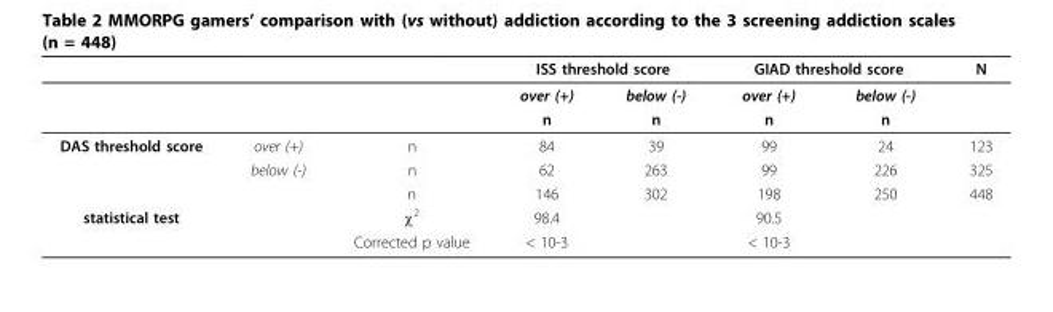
<table><thead><tr><td rowspan="2"></td><td rowspan="2"></td><td rowspan="2"></td><td colspan="2">ISS threshold score</td><td colspan="2">GIAD threshold score</td><td rowspan="2">N</td></tr><tr><td>over (+)</td><td>below (-)</td><td>over (+)</td><td>below (-)</td></tr></thead><tbody><tr><td></td><td></td><td></td><td>n</td><td>n</td><td>n</td><td>n</td><td></td></tr><tr><td rowspan="3">DAS threshold score</td><td>over (+)</td><td>n</td><td>84</td><td>39</td><td>99</td><td>24</td><td>123</td></tr><tr><td>below (-)</td><td>n</td><td>62</td><td>263</td><td>99</td><td>226</td><td>325</td></tr><tr><td></td><td>n</td><td>146</td><td>302</td><td>198</td><td>250</td><td>448</td></tr><tr><td rowspan="2">statistical test</td><td></td><td>χ<sup>2</sup></td><td>98.4</td><td></td><td>90.5</td><td></td><td></td></tr><tr><td></td><td>Corrected p value</td><td>&lt; 10-3</td><td></td><td>&lt; 10-3</td><td></td><td></td></tr></tbody></table>